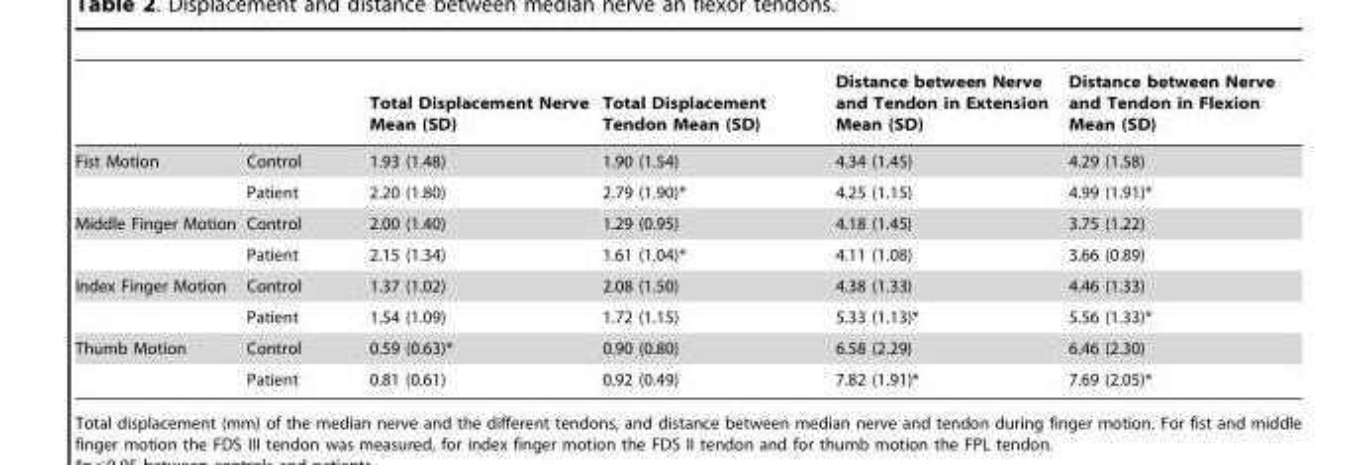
<table><thead><tr><td></td><td></td><td>Total Displacement Nerve Mean (SD)</td><td>Total Displacement Tendon Mean (SD)</td><td>Distance between Nerve and Tendon in Extension Mean (SD)</td><td>Distance between Nerve and Tendon in Flexion Mean (SD)</td></tr></thead><tbody><tr><td rowspan="2">Fist Motion</td><td>Control</td><td>1.93 (1.48)</td><td>1.90 (1.54)</td><td>4.34 (1.45)</td><td>4.29 (1.58)</td></tr><tr><td>Patient</td><td>2.20 (1.80)</td><td>2.79 (1.90)*</td><td>4.25 (1.15)</td><td>4.99 (1.91)*</td></tr><tr><td rowspan="2">Middle Finger Motion</td><td>Control</td><td>2.00 (1.40)</td><td>1.29 (0.95)</td><td>4.18 (1.45)</td><td>3.75 (1.22)</td></tr><tr><td>Patient</td><td>2.15 (1.34)</td><td>1.61 (1.04)*</td><td>4.11 (1.08)</td><td>3.66 (0.89)</td></tr><tr><td rowspan="2">Index Finger Motion</td><td>Control</td><td>1.37 (1.02)</td><td>2.08 (1.50)</td><td>4.38 (1.33)</td><td>4.46 (1.33)</td></tr><tr><td>Patient</td><td>1.54 (1.09)</td><td>1.72 (1.15)</td><td>5.33 (1.13)*</td><td>5.56 (1.33)*</td></tr><tr><td rowspan="2">Thumb Motion</td><td>Control</td><td>0.59 (0.63)*</td><td>0.90 (0.80)</td><td>6.58 (2.29)</td><td>6.46 (2.30)</td></tr><tr><td>Patient</td><td>0.81 (0.61)</td><td>0.92 (0.49)</td><td>7.82 (1.91)*</td><td>7.69 (2.05)*</td></tr></tbody></table>